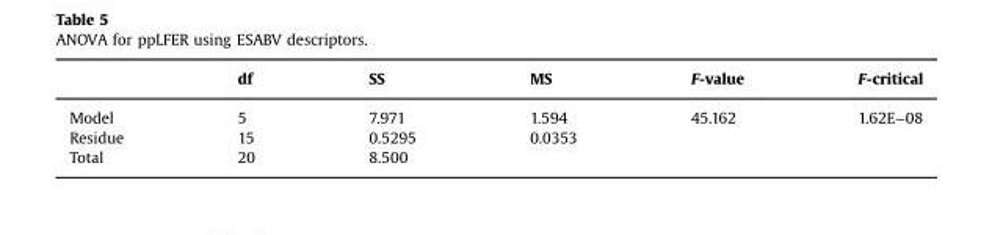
<table><thead><tr><td></td><td>df</td><td>SS</td><td>MS</td><td>F-value</td><td>F-critical</td></tr></thead><tbody><tr><td>Model</td><td>5</td><td>7.971</td><td>1.594</td><td>45.162</td><td>1.62E−08</td></tr><tr><td>Residue</td><td>15</td><td>0.5295</td><td>0.0353</td><td></td><td></td></tr><tr><td>Total</td><td>20</td><td>8.500</td><td></td><td></td><td></td></tr></tbody></table>